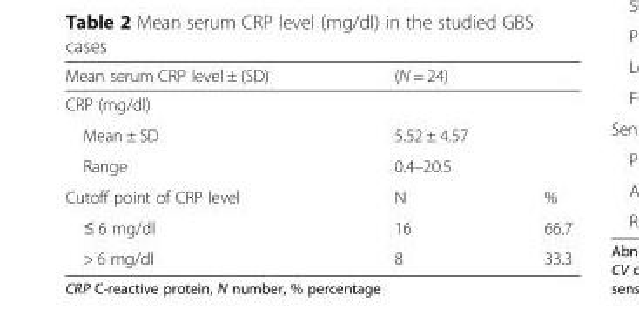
<table><thead><tr><td>Mean serum CRP level ± (SD)</td><td colspan="2">(N = 24)</td></tr></thead><tbody><tr><td colspan="3">CRP (mg/dl)</td></tr><tr><td>Mean ± SD</td><td colspan="2">5.52 ± 4.57</td></tr><tr><td>Range</td><td colspan="2">0.4–20.5</td></tr><tr><td>Cutoff point of CRP level</td><td>N</td><td>%</td></tr><tr><td>≤ 6 mg/dl</td><td>16</td><td>66.7</td></tr><tr><td>&gt; 6 mg/dl</td><td>8</td><td>33.3</td></tr></tbody></table>